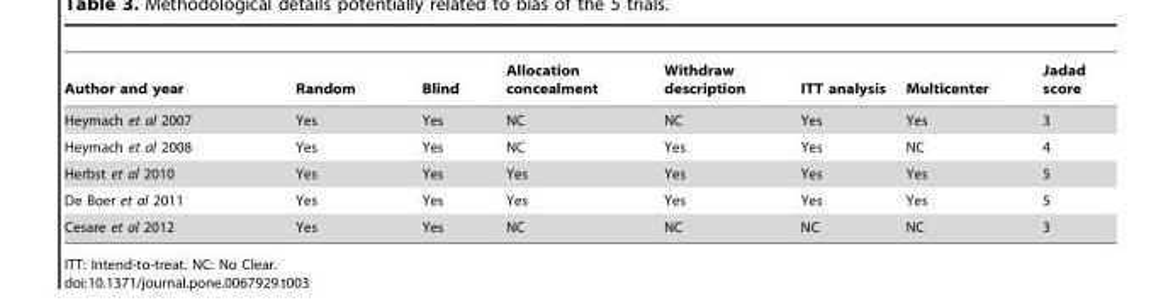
<table><thead><tr><td>Author and year</td><td>Random</td><td>Blind</td><td>Allocation concealment</td><td>Withdraw description</td><td>ITT analysis</td><td>Multicenter</td><td>Jadad score</td></tr></thead><tbody><tr><td>Heymach et al 2007</td><td>Yes</td><td>Yes</td><td>NC</td><td>NC</td><td>Yes</td><td>Yes</td><td>3</td></tr><tr><td>Heymach et al 2008</td><td>Yes</td><td>Yes</td><td>NC</td><td>Yes</td><td>Yes</td><td>NC</td><td>4</td></tr><tr><td>Herbst et al 2010</td><td>Yes</td><td>Yes</td><td>Yes</td><td>Yes</td><td>Yes</td><td>Yes</td><td>5</td></tr><tr><td>De Boer et al 2011</td><td>Yes</td><td>Yes</td><td>Yes</td><td>Yes</td><td>Yes</td><td>Yes</td><td>5</td></tr><tr><td>Cesare et al 2012</td><td>Yes</td><td>Yes</td><td>NC</td><td>NC</td><td>NC</td><td>NC</td><td>3</td></tr></tbody></table>